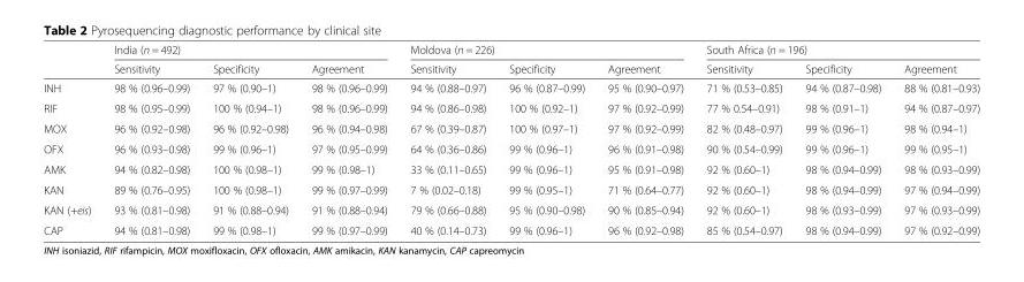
<table><thead><tr><td rowspan="2"></td><td colspan="3">India (n = 492)</td><td colspan="3">Moldova (n = 226)</td><td colspan="3">South Africa (n = 196)</td></tr><tr><td>Sensitivity</td><td>Specificity</td><td>Agreement</td><td>Sensitivity</td><td>Specificity</td><td>Agreement</td><td>Sensitivity</td><td>Specificity</td><td>Agreement</td></tr></thead><tbody><tr><td>INH</td><td>98 % (0.96–0.99)</td><td>97 % (0.90–1)</td><td>98 % (0.96–0.99)</td><td>94 % (0.88–0.97)</td><td>96 % (0.87–0.99)</td><td>95 % (0.90–0.97)</td><td>71 % (0.53–0.85)</td><td>94 % (0.87–0.98)</td><td>88 % (0.81–0.93)</td></tr><tr><td>RIF</td><td>98 % (0.95–0.99)</td><td>100 % (0.94–1)</td><td>98 % (0.96–0.99)</td><td>94 % (0.86–0.98)</td><td>100 % (0.92–1)</td><td>97 % (0.92–0.99)</td><td>77 % 0.54–0.91)</td><td>98 % (0.91–1)</td><td>94 % (0.87–0.97)</td></tr><tr><td>MOX</td><td>96 % (0.92–0.98)</td><td>96 % (0.92–0.98)</td><td>96 % (0.94–0.98)</td><td>67 % (0.39–0.87)</td><td>100 % (0.97–1)</td><td>97 % (0.92–0.99)</td><td>82 % (0.48–0.97)</td><td>99 % (0.96–1)</td><td>98 % (0.94–1)</td></tr><tr><td>OFX</td><td>96 % (0.93–0.98)</td><td>99 % (0.96–1)</td><td>97 % (0.95–0.99)</td><td>64 % (0.36–0.86)</td><td>99 % (0.96–1)</td><td>96 % (0.91–0.98)</td><td>90 % (0.54–0.99)</td><td>99 % (0.96–1)</td><td>99 % (0.95–1)</td></tr><tr><td>AMK</td><td>94 % (0.82–0.98)</td><td>100 % (0.98–1)</td><td>99 % (0.98–1)</td><td>33 % (0.11–0.65)</td><td>99 % (0.96–1)</td><td>95 % (0.91–0.98)</td><td>92 % (0.60–1)</td><td>98 % (0.94–0.99)</td><td>98 % (0.93–0.99)</td></tr><tr><td>KAN</td><td>89 % (0.76–0.95)</td><td>100 % (0.98–1)</td><td>99 % (0.97–0.99)</td><td>7 % (0.02–0.18)</td><td>99 % (0.95–1)</td><td>71 % (0.64–0.77)</td><td>92 % (0.60–1)</td><td>98 % (0.94–0.99)</td><td>97 % (0.94–0.99)</td></tr><tr><td>KAN (+eis)</td><td>93 % (0.81–0.98)</td><td>91 % (0.88–0.94)</td><td>91 % (0.88–0.94)</td><td>79 % (0.66–0.88)</td><td>95 % (0.90–0.98)</td><td>90 % (0.85–0.94)</td><td>92 % (0.60–1)</td><td>98 % (0.93–0.99)</td><td>97 % (0.93–0.99)</td></tr><tr><td>CAP</td><td>94 % (0.81–0.98)</td><td>99 % (0.98–1)</td><td>99 % (0.97–0.99)</td><td>40 % (0.14–0.73)</td><td>99 % (0.96–1)</td><td>96 % (0.92–0.98)</td><td>85 % (0.54–0.97)</td><td>98 % (0.94–0.99)</td><td>97 % (0.92–0.99)</td></tr></tbody></table>